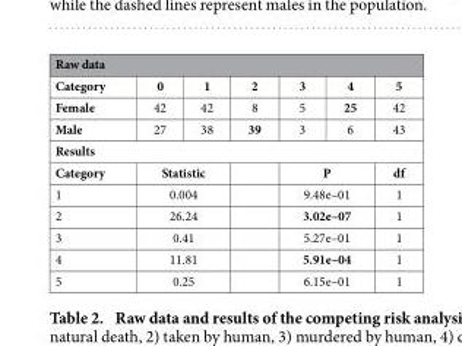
<table><thead><tr><td colspan="7">Raw data</td></tr><tr><td>Category</td><td>0</td><td>1</td><td>2</td><td>3</td><td>4</td><td>5</td></tr></thead><tbody><tr><td>Female</td><td>42</td><td>42</td><td>8</td><td>5</td><td>25</td><td>42</td></tr><tr><td>Male</td><td>27</td><td>38</td><td>39</td><td>3</td><td>6</td><td>43</td></tr><tr><td colspan="7">Results</td></tr><tr><td>Category</td><td colspan="2">Statistic</td><td></td><td colspan="2">P</td><td>df</td></tr><tr><td>1</td><td colspan="2">0.004</td><td></td><td colspan="2">9.48e–01</td><td>1</td></tr><tr><td>2</td><td colspan="2">26.24</td><td></td><td colspan="2">3.02e–07</td><td>1</td></tr><tr><td>3</td><td colspan="2">0.41</td><td></td><td colspan="2">5.27e–01</td><td>1</td></tr><tr><td>4</td><td colspan="2">11.81</td><td></td><td colspan="2">5.91e–04</td><td>1</td></tr><tr><td>5</td><td colspan="2">0.25</td><td></td><td colspan="2">6.15e–01</td><td>1</td></tr></tbody></table>